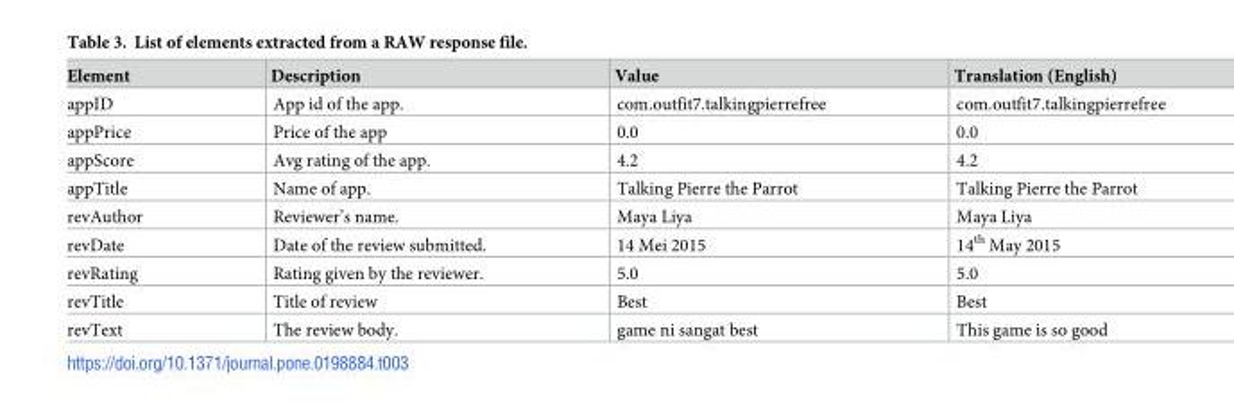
<table><thead><tr><td>Element</td><td>Description</td><td>Value</td><td>Translation (English)</td></tr></thead><tbody><tr><td>appID</td><td>App id of the app.</td><td>com.outfit7.talkingpierrefree</td><td>com.outfit7.talkingpierrefree</td></tr><tr><td>appPrice</td><td>Price of the app</td><td>0.0</td><td>0.0</td></tr><tr><td>appScore</td><td>Avg rating of the app.</td><td>4.2</td><td>4.2</td></tr><tr><td>appTitle</td><td>Name of app.</td><td>Talking Pierre the Parrot</td><td>Talking Pierre the Parrot</td></tr><tr><td>revAuthor</td><td>Reviewer’s name.</td><td>Maya Liya</td><td>Maya Liya</td></tr><tr><td>revDate</td><td>Date of the review submitted.</td><td>14 Mei 2015</td><td>14<sup>th</sup> May 2015</td></tr><tr><td>revRating</td><td>Rating given by the reviewer.</td><td>5.0</td><td>5.0</td></tr><tr><td>revTitle</td><td>Title of review</td><td>Best</td><td>Best</td></tr><tr><td>revText</td><td>The review body.</td><td>game ni sangat best</td><td>This game is so good</td></tr></tbody></table>